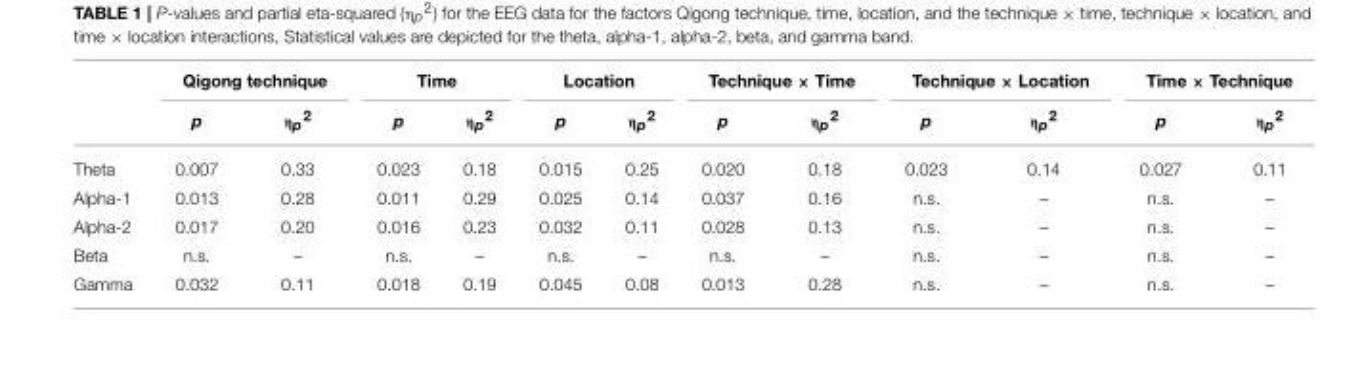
<table><thead><tr><td rowspan="2"></td><td colspan="2">Qigong technique</td><td colspan="2">Time</td><td colspan="2">Location</td><td colspan="2">Technique × Time</td><td colspan="2">Technique × Location</td><td colspan="2">Time × Technique</td></tr><tr><td>p</td><td>ηp2</td><td>p</td><td>ηp2</td><td>p</td><td>ηp2</td><td>p</td><td>ηp2</td><td>p</td><td>ηp2</td><td>p</td><td>ηp2</td></tr></thead><tbody><tr><td>Theta</td><td>0.007</td><td>0.33</td><td>0.023</td><td>0.18</td><td>0.015</td><td>0.25</td><td>0.020</td><td>0.18</td><td>0.023</td><td>0.14</td><td>0.027</td><td>0.11</td></tr><tr><td>Alpha-1</td><td>0.013</td><td>0.28</td><td>0.011</td><td>0.29</td><td>0.025</td><td>0.14</td><td>0.037</td><td>0.16</td><td>n.s.</td><td>–</td><td>n.s.</td><td>–</td></tr><tr><td>Alpha-2</td><td>0.017</td><td>0.20</td><td>0.016</td><td>0.23</td><td>0.032</td><td>0.11</td><td>0.028</td><td>0.13</td><td>n.s.</td><td>–</td><td>n.s.</td><td>–</td></tr><tr><td>Beta</td><td>n.s.</td><td>–</td><td>n.s.</td><td>–</td><td>n.s.</td><td>–</td><td>n.s.</td><td>–</td><td>n.s.</td><td>–</td><td>n.s.</td><td>–</td></tr><tr><td>Gamma</td><td>0.032</td><td>0.11</td><td>0.018</td><td>0.19</td><td>0.045</td><td>0.08</td><td>0.013</td><td>0.28</td><td>n.s.</td><td>–</td><td>n.s.</td><td>–</td></tr></tbody></table>